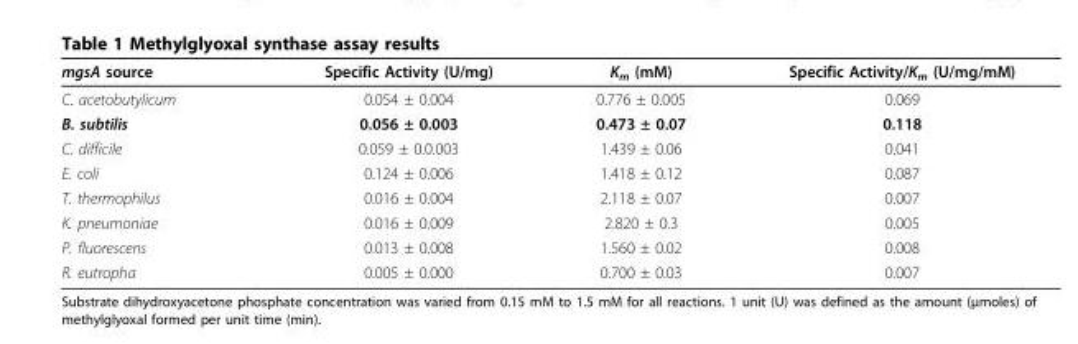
<table><thead><tr><td>mgsA source</td><td>Specific Activity (U/mg)</td><td>K<sub>m</sub> (mM)</td><td>Specific Activity/K<sub>m</sub> (U/mg/mM)</td></tr></thead><tbody><tr><td>C. acetobutylicum</td><td>0.054 ± 0.004</td><td>0.776 ± 0.005</td><td>0.069</td></tr><tr><td>B. subtilis</td><td>0.056 ± 0.003</td><td>0.473 ± 0.07</td><td>0.118</td></tr><tr><td>C. difficile</td><td>0.059 ± 0.0.003</td><td>1.439 ± 0.06</td><td>0.041</td></tr><tr><td>E. coli</td><td>0.124 ± 0.006</td><td>1.418 ± 0.12</td><td>0.087</td></tr><tr><td>T. thermophilus</td><td>0.016 ± 0.004</td><td>2.118 ± 0.07</td><td>0.007</td></tr><tr><td>K. pneumoniae</td><td>0.016 ± 0.009</td><td>2.820 ± 0.3</td><td>0.005</td></tr><tr><td>P. fluorescens</td><td>0.013 ± 0.008</td><td>1.560 ± 0.02</td><td>0.008</td></tr><tr><td>R. eutropha</td><td>0.005 ± 0.000</td><td>0.700 ± 0.03</td><td>0.007</td></tr></tbody></table>